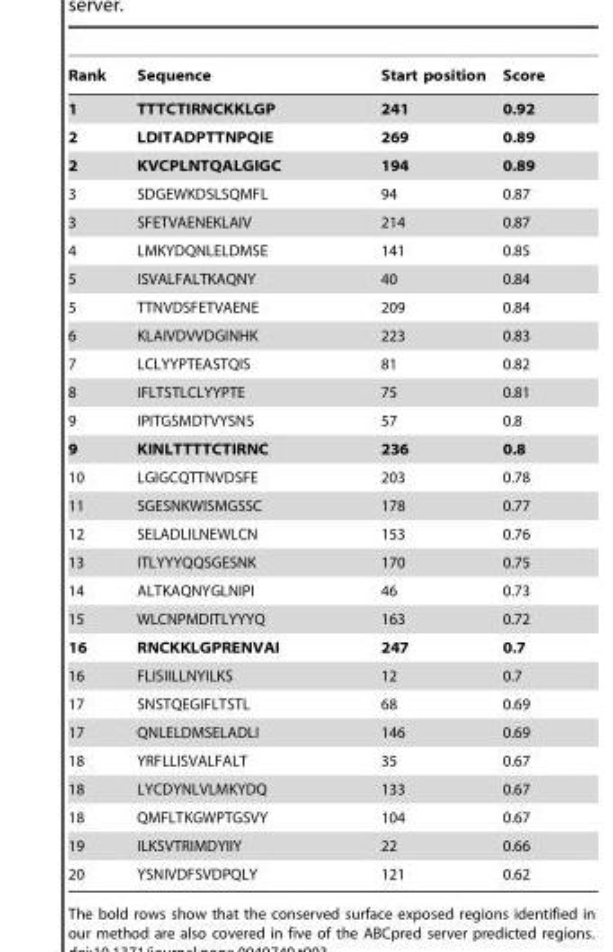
<table><thead><tr><td>Rank</td><td>Sequence</td><td>Start position</td><td>Score</td></tr></thead><tbody><tr><td>1</td><td>TTTCTIRNCKKLGP</td><td>241</td><td>0.92</td></tr><tr><td>2</td><td>LDITADPTTNPQIE</td><td>269</td><td>0.89</td></tr><tr><td>2</td><td>KVCPLNTQALGIGC</td><td>194</td><td>0.89</td></tr><tr><td>3</td><td>SDGEWKDSLSQMFL</td><td>94</td><td>0.87</td></tr><tr><td>3</td><td>SFETVAENEKLAIV</td><td>214</td><td>0.87</td></tr><tr><td>4</td><td>LMKYDQNLELDMSE</td><td>141</td><td>0.85</td></tr><tr><td>5</td><td>ISVALFALTKAQNY</td><td>40</td><td>0.84</td></tr><tr><td>5</td><td>TTNVDSFETVAENE</td><td>209</td><td>0.84</td></tr><tr><td>6</td><td>KLAIVDVVDGINHK</td><td>223</td><td>0.83</td></tr><tr><td>7</td><td>LCLYYPTEASTQIS</td><td>81</td><td>0.82</td></tr><tr><td>8</td><td>IFLTSTLCLYYPTE</td><td>75</td><td>0.81</td></tr><tr><td>9</td><td>IPITGSMDTVYSNS</td><td>57</td><td>0.8</td></tr><tr><td>9</td><td>KINLTTTTCTIRNC</td><td>236</td><td>0.8</td></tr><tr><td>10</td><td>LGIGCQTTNVDSFE</td><td>203</td><td>0.78</td></tr><tr><td>11</td><td>SGESNKWISMGSSC</td><td>178</td><td>0.77</td></tr><tr><td>12</td><td>SELADLILNEWLCN</td><td>153</td><td>0.76</td></tr><tr><td>13</td><td>ITLYYYQQSGESNK</td><td>170</td><td>0.75</td></tr><tr><td>14</td><td>ALTKAQNYGLNIPI</td><td>46</td><td>0.73</td></tr><tr><td>15</td><td>WLCNPMDITLYYYQ</td><td>163</td><td>0.72</td></tr><tr><td>16</td><td>RNCKKLGPRENVAI</td><td>247</td><td>0.7</td></tr><tr><td>16</td><td>FLISIILLNYILKS</td><td>12</td><td>0.7</td></tr><tr><td>17</td><td>SNSTQEGIFLTSTL</td><td>68</td><td>0.69</td></tr><tr><td>17</td><td>QNLELDMSELADLI</td><td>146</td><td>0.69</td></tr><tr><td>18</td><td>YRFLLISVALFALT</td><td>35</td><td>0.67</td></tr><tr><td>18</td><td>LYCDYNLVLMKYDQ</td><td>133</td><td>0.67</td></tr><tr><td>18</td><td>QMFLTKGWPTGSVY</td><td>104</td><td>0.67</td></tr><tr><td>19</td><td>ILKSVTRIMDYIIY</td><td>22</td><td>0.66</td></tr><tr><td>20</td><td>YSNIVDFSVDPQLY</td><td>121</td><td>0.62</td></tr></tbody></table>